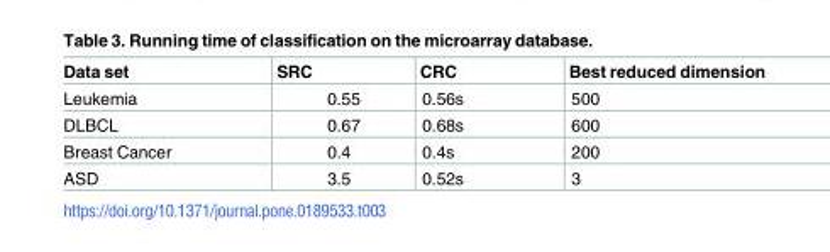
<table><thead><tr><td>Data set</td><td>SRC</td><td>CRC</td><td>Best reduced dimension</td></tr></thead><tbody><tr><td>Leukemia</td><td>0.55</td><td>0.56s</td><td>500</td></tr><tr><td>DLBCL</td><td>0.67</td><td>0.68s</td><td>600</td></tr><tr><td>Breast Cancer</td><td>0.4</td><td>0.4s</td><td>200</td></tr><tr><td>ASD</td><td>3.5</td><td>0.52s</td><td>3</td></tr></tbody></table>